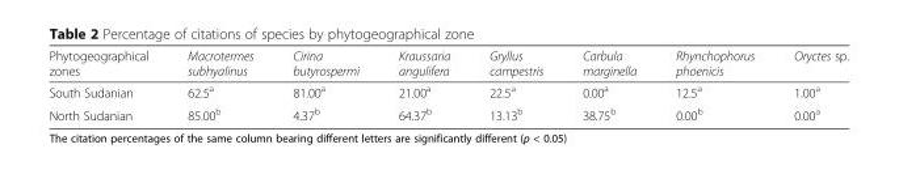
<table><thead><tr><td>Phytogeographical zones</td><td>Macrotermes subhyalinus</td><td>Cirina butyrospermi</td><td>Kraussaria angulifera</td><td>Gryllus campestris</td><td>Carbula marginella</td><td>Rhynchophorus phoenicis</td><td>Oryctes sp.</td></tr></thead><tbody><tr><td>South Sudanian</td><td>62.5<sup>a</sup></td><td>81.00<sup>a</sup></td><td>21.00<sup>a</sup></td><td>22.5<sup>a</sup></td><td>0.00<sup>a</sup></td><td>12.5<sup>a</sup></td><td>1.00<sup>a</sup></td></tr><tr><td>North Sudanian</td><td>85.00<sup>b</sup></td><td>4.37<sup>b</sup></td><td>64.37<sup>b</sup></td><td>13.13<sup>b</sup></td><td>38.75<sup>b</sup></td><td>0.00<sup>b</sup></td><td>0.00<sup>a</sup></td></tr></tbody></table>